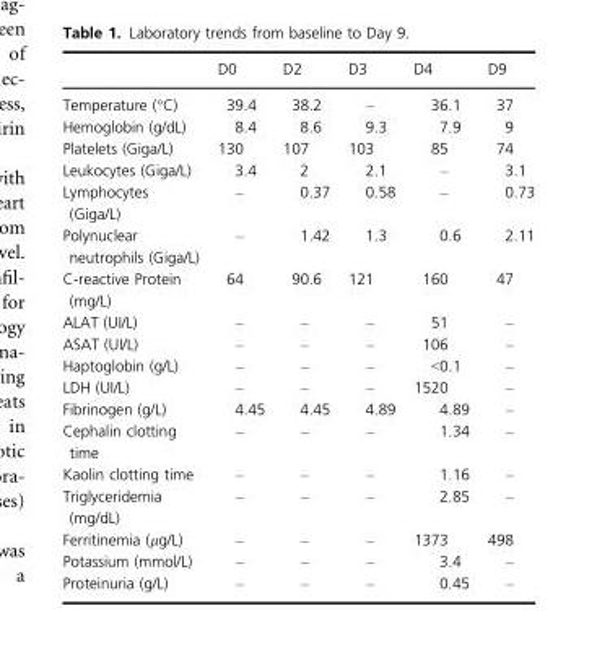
<table><thead><tr><td></td><td>D0</td><td>D2</td><td>D3</td><td>D4</td><td>D9</td></tr></thead><tbody><tr><td>Temperature (°C)</td><td>39.4</td><td>38.2</td><td>–</td><td>36.1</td><td>37</td></tr><tr><td>Hemoglobin (g/dL)</td><td>8.4</td><td>8.6</td><td>9.3</td><td>7.9</td><td>9</td></tr><tr><td>Platelets (Giga/L)</td><td>130</td><td>107</td><td>103</td><td>85</td><td>74</td></tr><tr><td>Leukocytes (Giga/L)</td><td>3.4</td><td>2</td><td>2.1</td><td>–</td><td>3.1</td></tr><tr><td>Lymphocytes (Giga/L)</td><td>–</td><td>0.37</td><td>0.58</td><td>–</td><td>0.73</td></tr><tr><td>Polynuclear neutrophils (Giga/L)</td><td>–</td><td>1.42</td><td>1.3</td><td>0.6</td><td>2.11</td></tr><tr><td>C-reactive Protein (mg/L)</td><td>64</td><td>90.6</td><td>121</td><td>160</td><td>47</td></tr><tr><td>ALAT (UI/L)</td><td>–</td><td>–</td><td>–</td><td>51</td><td>–</td></tr><tr><td>ASAT (UI/L)</td><td>–</td><td>–</td><td>–</td><td>106</td><td>–</td></tr><tr><td>Haptoglobin (g/L)</td><td>–</td><td>–</td><td>–</td><td>&lt;0.1</td><td>–</td></tr><tr><td>LDH (UI/L)</td><td>–</td><td>–</td><td>–</td><td>1520</td><td>–</td></tr><tr><td>Fibrinogen (g/L)</td><td>4.45</td><td>4.45</td><td>4.89</td><td>4.89</td><td>–</td></tr><tr><td>Cephalin clotting time</td><td>–</td><td>–</td><td>–</td><td>1.34</td><td>–</td></tr><tr><td>Kaolin clotting time</td><td>–</td><td>–</td><td>–</td><td>1.16</td><td>–</td></tr><tr><td>Triglyceridemia (mg/dL)</td><td>–</td><td>–</td><td>–</td><td>2.85</td><td>–</td></tr><tr><td>Ferritinemia (μg/L)</td><td>–</td><td>–</td><td>–</td><td>1373</td><td>498</td></tr><tr><td>Potassium (mmol/L)</td><td>–</td><td>–</td><td>–</td><td>3.4</td><td>–</td></tr><tr><td>Proteinuria (g/L)</td><td>–</td><td>–</td><td>–</td><td>0.45</td><td>–</td></tr></tbody></table>